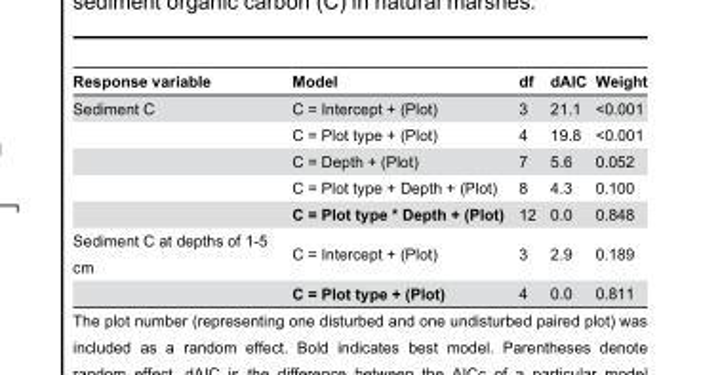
<table><thead><tr><td>Response variable</td><td>Model</td><td>df</td><td>dAIC</td><td>Weight</td></tr></thead><tbody><tr><td rowspan="5">Sediment C</td><td>C = Intercept + (Plot)</td><td>3</td><td>21.1</td><td>&lt;0.001</td></tr><tr><td>C = Plot type + (Plot)</td><td>4</td><td>19.8</td><td>&lt;0.001</td></tr><tr><td>C = Depth + (Plot)</td><td>7</td><td>5.6</td><td>0.052</td></tr><tr><td>C = Plot type + Depth + (Plot)</td><td>8</td><td>4.3</td><td>0.100</td></tr><tr><td>C = Plot type * Depth + (Plot)</td><td>12</td><td>0.0</td><td>0.848</td></tr><tr><td rowspan="2">Sediment C at depths of 1-5 cm</td><td>C = Intercept + (Plot)</td><td>3</td><td>2.9</td><td>0.189</td></tr><tr><td>C = Plot type + (Plot)</td><td>4</td><td>0.0</td><td>0.811</td></tr></tbody></table>